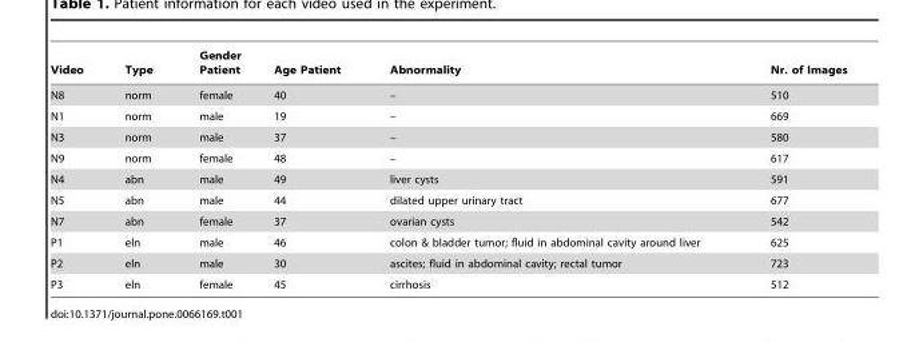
<table><thead><tr><td>Video</td><td>Type</td><td>Gender Patient</td><td>Age Patient</td><td>Abnormality</td><td>Nr. of Images</td></tr></thead><tbody><tr><td>N8</td><td>norm</td><td>female</td><td>40</td><td>–</td><td>510</td></tr><tr><td>N1</td><td>norm</td><td>male</td><td>19</td><td>–</td><td>669</td></tr><tr><td>N3</td><td>norm</td><td>male</td><td>37</td><td>–</td><td>580</td></tr><tr><td>N9</td><td>norm</td><td>female</td><td>48</td><td>–</td><td>617</td></tr><tr><td>N4</td><td>abn</td><td>male</td><td>49</td><td>liver cysts</td><td>591</td></tr><tr><td>N5</td><td>abn</td><td>male</td><td>44</td><td>dilated upper urinary tract</td><td>677</td></tr><tr><td>N7</td><td>abn</td><td>female</td><td>37</td><td>ovarian cysts</td><td>542</td></tr><tr><td>P1</td><td>eln</td><td>male</td><td>46</td><td>colon &amp; bladder tumor; fluid in abdominal cavity around liver</td><td>625</td></tr><tr><td>P2</td><td>eln</td><td>male</td><td>30</td><td>ascites; fluid in abdominal cavity; rectal tumor</td><td>723</td></tr><tr><td>P3</td><td>eln</td><td>female</td><td>45</td><td>cirrhosis</td><td>512</td></tr></tbody></table>